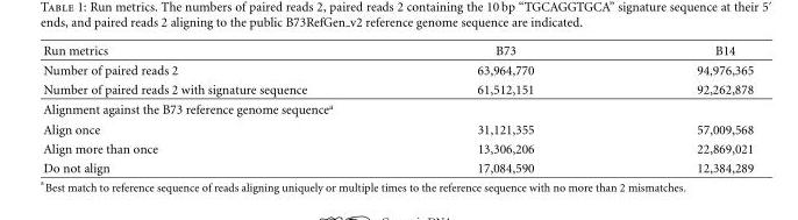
<table><thead><tr><td>Run metrics</td><td>B73</td><td>B14</td></tr></thead><tbody><tr><td>Number of paired reads 2</td><td>63,964,770</td><td>94,976,365</td></tr><tr><td>Number of paired reads 2 with signature sequence</td><td>61,512,151</td><td>92,262,878</td></tr><tr><td colspan="3">Alignment against the B73 reference genome sequence<sup>a</sup></td></tr><tr><td>Align once</td><td>31,121,355</td><td>57,009,568</td></tr><tr><td>Align more than once</td><td>13,306,206</td><td>22,869,021</td></tr><tr><td>Do not align</td><td>17,084,590</td><td>12,384,289</td></tr></tbody></table>